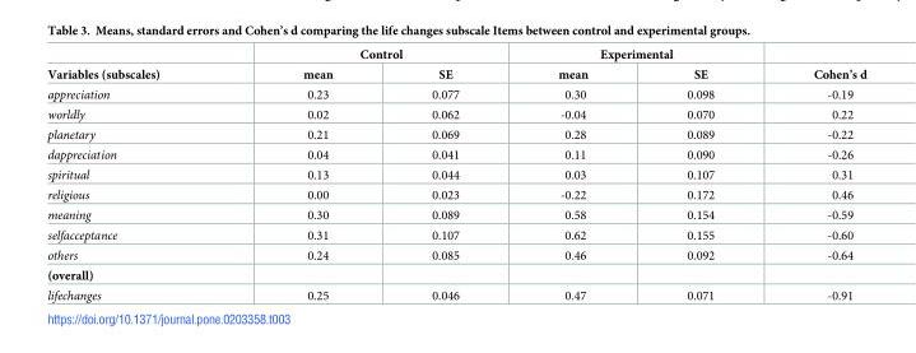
<table><thead><tr><td rowspan="2">Variables (subscales)</td><td colspan="2">Control</td><td colspan="2">Experimental</td><td rowspan="2">Cohen’s d</td></tr><tr><td>mean</td><td>SE</td><td>mean</td><td>SE</td></tr></thead><tbody><tr><td>appreciation</td><td>0.23</td><td>0.077</td><td>0.30</td><td>0.098</td><td>-0.19</td></tr><tr><td>worldly</td><td>0.02</td><td>0.062</td><td>-0.04</td><td>0.070</td><td>0.22</td></tr><tr><td>planetary</td><td>0.21</td><td>0.069</td><td>0.28</td><td>0.089</td><td>-0.22</td></tr><tr><td>dappreciation</td><td>0.04</td><td>0.041</td><td>0.11</td><td>0.090</td><td>-0.26</td></tr><tr><td>spiritual</td><td>0.13</td><td>0.044</td><td>0.03</td><td>0.107</td><td>0.31</td></tr><tr><td>religious</td><td>0.00</td><td>0.023</td><td>-0.22</td><td>0.172</td><td>0.46</td></tr><tr><td>meaning</td><td>0.30</td><td>0.089</td><td>0.58</td><td>0.154</td><td>-0.59</td></tr><tr><td>selfacceptance</td><td>0.31</td><td>0.107</td><td>0.62</td><td>0.155</td><td>-0.60</td></tr><tr><td>others</td><td>0.24</td><td>0.085</td><td>0.46</td><td>0.092</td><td>-0.64</td></tr><tr><td colspan="6">(overall)</td></tr><tr><td>lifechanges</td><td>0.25</td><td>0.046</td><td>0.47</td><td>0.071</td><td>-0.91</td></tr></tbody></table>